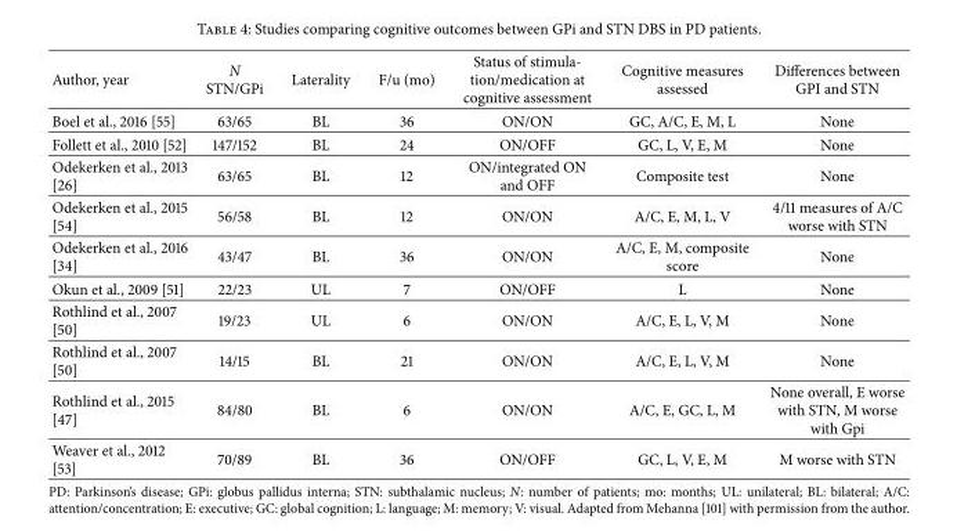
<table><thead><tr><td>Author, year</td><td>N STN/GPi</td><td>Laterality</td><td>F/u (mo)</td><td>Status of stimula- tion/medication at cognitive assessment</td><td>Cognitive measures assessed</td><td>Differences between GPI and STN</td></tr></thead><tbody><tr><td>Boel et al., 2016 [55]</td><td>63/65</td><td>BL</td><td>36</td><td>ON/ON</td><td>GC, A/C, E, M, L</td><td>None</td></tr><tr><td>Follett et al., 2010 [52]</td><td>147/152</td><td>BL</td><td>24</td><td>ON/OFF</td><td>GC, L, V, E, M</td><td>None</td></tr><tr><td>Odekerken et al., 2013 [26]</td><td>63/65</td><td>BL</td><td>12</td><td>ON/integrated ON and OFF</td><td>Composite test</td><td>None</td></tr><tr><td>Odekerken et al., 2015 [54]</td><td>56/58</td><td>BL</td><td>12</td><td>ON/ON</td><td>A/C, E, M, L, V</td><td>4/11 measures of A/C worse with STN</td></tr><tr><td>Odekerken et al., 2016 [34]</td><td>43/47</td><td>BL</td><td>36</td><td>ON/ON</td><td>A/C, E, M, composite score</td><td>None</td></tr><tr><td>Okun et al., 2009 [51]</td><td>22/23</td><td>UL</td><td>7</td><td>ON/OFF</td><td>L</td><td>None</td></tr><tr><td>Rothlind et al., 2007 [50]</td><td>19/23</td><td>UL</td><td>6</td><td>ON/ON</td><td>A/C, E, L, V, M</td><td>None</td></tr><tr><td>Rothlind et al., 2007 [50]</td><td>14/15</td><td>BL</td><td>21</td><td>ON/ON</td><td>A/C, E, L, V, M</td><td>None</td></tr><tr><td>Rothlind et al., 2015 [47]</td><td>84/80</td><td>BL</td><td>6</td><td>ON/ON</td><td>A/C, E, GC, L, M</td><td>None overall, E worse with STN, M worse with Gpi</td></tr><tr><td>Weaver et al., 2012 [53]</td><td>70/89</td><td>BL</td><td>36</td><td>ON/OFF</td><td>GC, L, V, E, M</td><td>M worse with STN</td></tr></tbody></table>